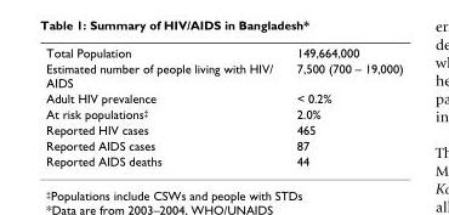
<table><tbody><tr><td>Total Population</td><td>149,664,000</td></tr><tr><td>Estimated number of people living with HIV/ AIDS</td><td>7,500 (700 – 19,000)</td></tr><tr><td>Adult HIV prevalence</td><td>&lt; 0.2%</td></tr><tr><td>At risk populations<sup>‡</sup></td><td>2.0%</td></tr><tr><td>Reported HIV cases</td><td>465</td></tr><tr><td>Reported AIDS cases</td><td>87</td></tr><tr><td>Reported AIDS deaths</td><td>44</td></tr></tbody></table>